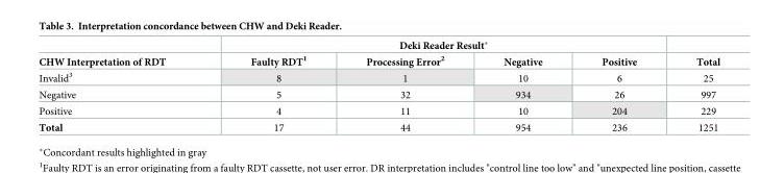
<table><thead><tr><td rowspan="2">CHW Interpretation of RDT</td><td colspan="4">Deki Reader Result*</td><td rowspan="2">Total</td></tr><tr><td>Faulty RDT<sup>1</sup></td><td>Processing Error<sup>2</sup></td><td>Negative</td><td>Positive</td></tr></thead><tbody><tr><td>Invalid<sup>3</sup></td><td>8</td><td>1</td><td>10</td><td>6</td><td>25</td></tr><tr><td>Negative</td><td>5</td><td>32</td><td>934</td><td>26</td><td>997</td></tr><tr><td>Positive</td><td>4</td><td>11</td><td>10</td><td>204</td><td>229</td></tr><tr><td>Total</td><td>17</td><td>44</td><td>954</td><td>236</td><td>1251</td></tr></tbody></table>